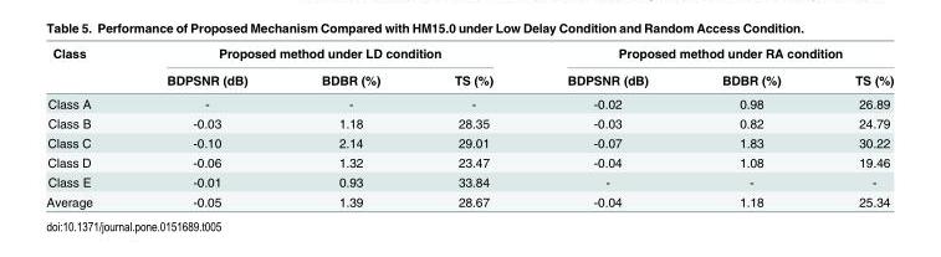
<table><thead><tr><td rowspan="2">Class</td><td colspan="3">Proposed method under LD condition</td><td colspan="3">Proposed method under RA condition</td></tr><tr><td>BDPSNR (dB)</td><td>BDBR (%)</td><td>TS (%)</td><td>BDPSNR (dB)</td><td>BDBR (%)</td><td>TS (%)</td></tr></thead><tbody><tr><td>Class A</td><td>-</td><td>-</td><td>-</td><td>-0.02</td><td>0.98</td><td>26.89</td></tr><tr><td>Class B</td><td>-0.03</td><td>1.18</td><td>28.35</td><td>-0.03</td><td>0.82</td><td>24.79</td></tr><tr><td>Class C</td><td>-0.10</td><td>2.14</td><td>29.01</td><td>-0.07</td><td>1.83</td><td>30.22</td></tr><tr><td>Class D</td><td>-0.06</td><td>1.32</td><td>23.47</td><td>-0.04</td><td>1.08</td><td>19.46</td></tr><tr><td>Class E</td><td>-0.01</td><td>0.93</td><td>33.84</td><td>-</td><td>-</td><td>-</td></tr><tr><td>Average</td><td>-0.05</td><td>1.39</td><td>28.67</td><td>-0.04</td><td>1.18</td><td>25.34</td></tr></tbody></table>